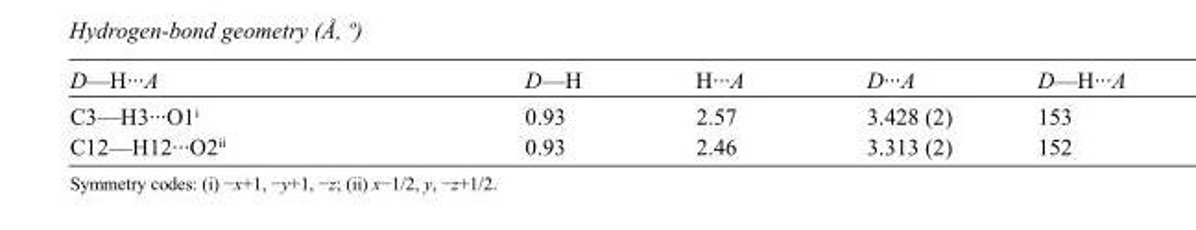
<table><tbody><tr><td>D—H···A</td><td>D—H</td><td>H···A</td><td>D···A</td><td>D—H···A</td></tr><tr><td>C3—H3···O1<sup>i</sup></td><td>0.93</td><td>2.57</td><td>3.428 (2)</td><td>153</td></tr><tr><td>C12—H12···O2<sup>ii</sup></td><td>0.93</td><td>2.46</td><td>3.313 (2)</td><td>152</td></tr></tbody></table>